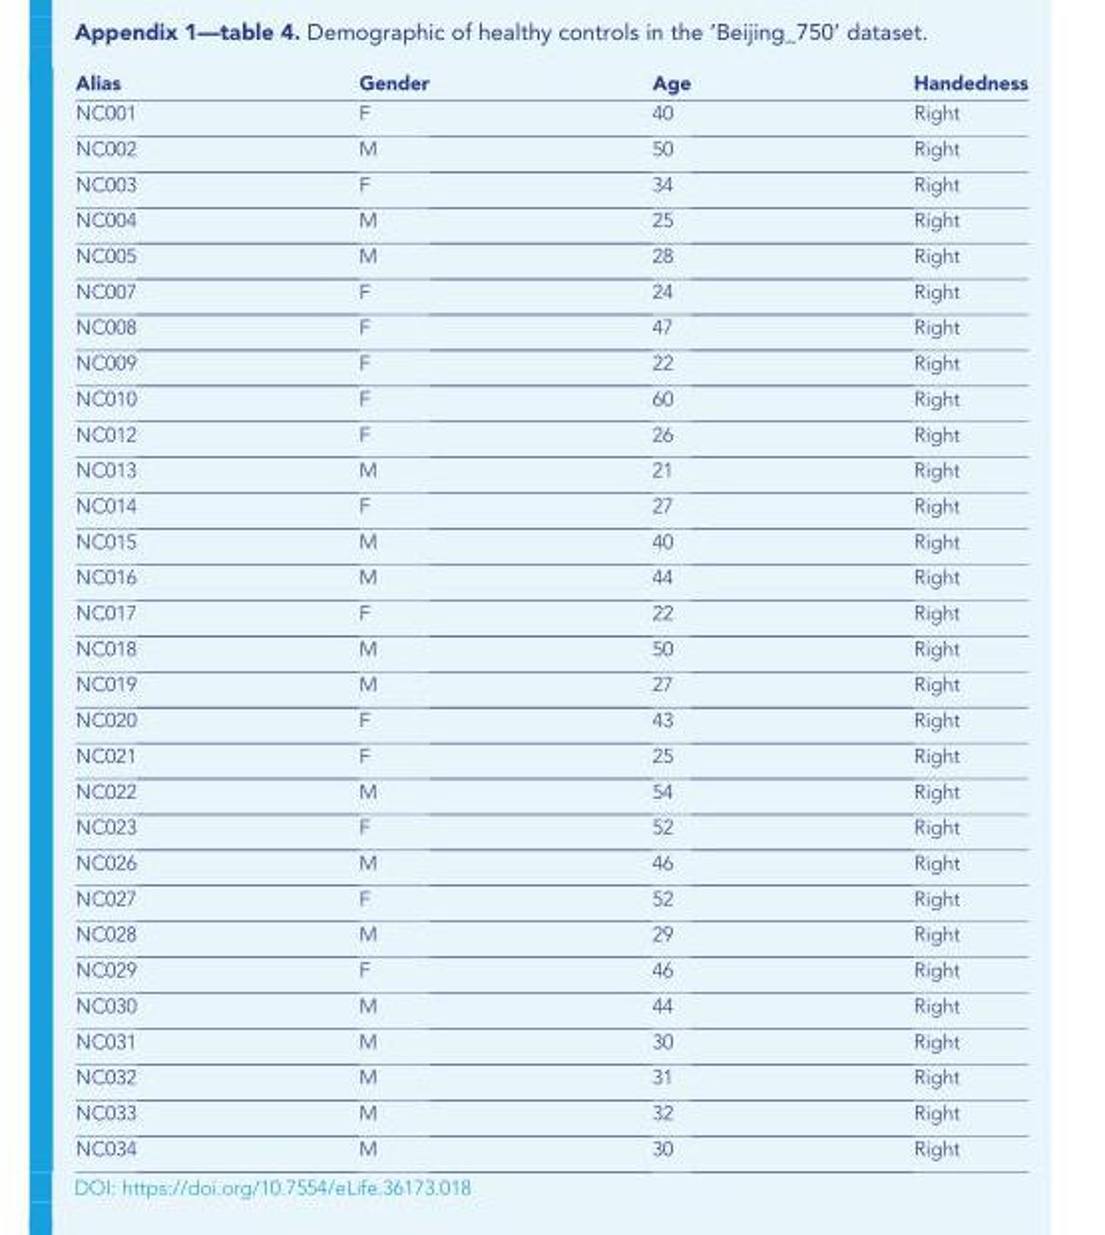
<table><thead><tr><td>Alias</td><td>Gender</td><td>Age</td><td>Handedness</td></tr></thead><tbody><tr><td>NC001</td><td>F</td><td>40</td><td>Right</td></tr><tr><td>NC002</td><td>M</td><td>50</td><td>Right</td></tr><tr><td>NC003</td><td>F</td><td>34</td><td>Right</td></tr><tr><td>NC004</td><td>M</td><td>25</td><td>Right</td></tr><tr><td>NC005</td><td>M</td><td>28</td><td>Right</td></tr><tr><td>NC007</td><td>F</td><td>24</td><td>Right</td></tr><tr><td>NC008</td><td>F</td><td>47</td><td>Right</td></tr><tr><td>NC009</td><td>F</td><td>22</td><td>Right</td></tr><tr><td>NC010</td><td>F</td><td>60</td><td>Right</td></tr><tr><td>NC012</td><td>F</td><td>26</td><td>Right</td></tr><tr><td>NC013</td><td>M</td><td>21</td><td>Right</td></tr><tr><td>NC014</td><td>F</td><td>27</td><td>Right</td></tr><tr><td>NC015</td><td>M</td><td>40</td><td>Right</td></tr><tr><td>NC016</td><td>M</td><td>44</td><td>Right</td></tr><tr><td>NC017</td><td>F</td><td>22</td><td>Right</td></tr><tr><td>NC018</td><td>M</td><td>50</td><td>Right</td></tr><tr><td>NC019</td><td>M</td><td>27</td><td>Right</td></tr><tr><td>NC020</td><td>F</td><td>43</td><td>Right</td></tr><tr><td>NC021</td><td>F</td><td>25</td><td>Right</td></tr><tr><td>NC022</td><td>M</td><td>54</td><td>Right</td></tr><tr><td>NC023</td><td>F</td><td>52</td><td>Right</td></tr><tr><td>NC026</td><td>M</td><td>46</td><td>Right</td></tr><tr><td>NC027</td><td>F</td><td>52</td><td>Right</td></tr><tr><td>NC028</td><td>M</td><td>29</td><td>Right</td></tr><tr><td>NC029</td><td>F</td><td>46</td><td>Right</td></tr><tr><td>NC030</td><td>M</td><td>44</td><td>Right</td></tr><tr><td>NC031</td><td>M</td><td>30</td><td>Right</td></tr><tr><td>NC032</td><td>M</td><td>31</td><td>Right</td></tr><tr><td>NC033</td><td>M</td><td>32</td><td>Right</td></tr><tr><td>NC034</td><td>M</td><td>30</td><td>Right</td></tr></tbody></table>